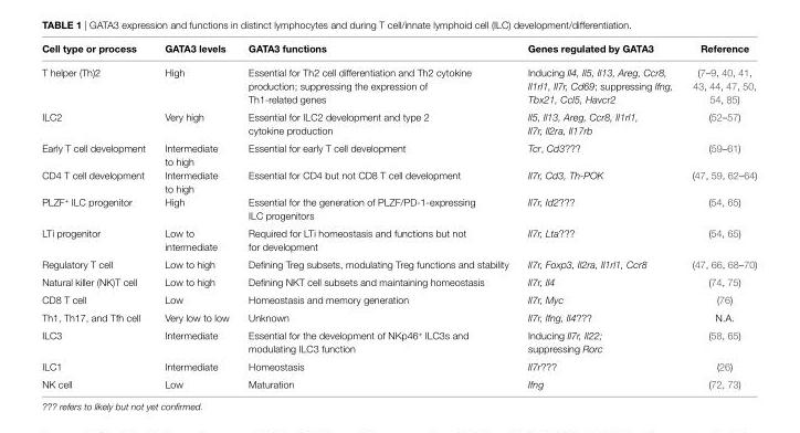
<table><thead><tr><td>cell type or process</td><td>GAtA3 levels</td><td>GAtA3 functions</td><td>Genes regulated by GAtA3</td><td>reference</td></tr></thead><tbody><tr><td>T helper (Th)2</td><td>High</td><td>Essential for Th2 cell differentiation and Th2 cytokine production; suppressing the expression of Th1-related genes</td><td>Inducing Il4, Il5, Il13, Areg, Ccr8, Il1rl1, Il7r, Cd69; suppressing Ifng, Tbx21, Ccl5, Havcr2</td><td>(7–9, 40, 41, 43, 44, 47, 50, 54, 85)</td></tr><tr><td>ILC2</td><td>Very high</td><td>Essential for ILC2 development and type 2 cytokine production</td><td>Il5, Il13, Areg, Ccr8, Il1rl1, Il7r, Il2ra, Il17rb</td><td>(52–57)</td></tr><tr><td>Early T cell development</td><td>Intermediate to high</td><td>Essential for early T cell development</td><td>Tcr, Cd3???</td><td>(59–61)</td></tr><tr><td>CD4 T cell development</td><td>Intermediate to high</td><td>Essential for CD4 but not CD8 T cell development</td><td>Il7r, Cd3, Th-POK</td><td>(47, 59, 62–64)</td></tr><tr><td>PLZF<sup>+</sup> ILC progenitor</td><td>High</td><td>Essential for the generation of PLZF/PD-1-expressing ILC progenitors</td><td>Il7r, Id2???</td><td>(54, 65)</td></tr><tr><td>LTi progenitor</td><td>Low to intermediate</td><td>Required for LTi homeostasis and functions but not for development</td><td>Il7r, Lta???</td><td>(54, 65)</td></tr><tr><td>Regulatory T cell</td><td>Low to high</td><td>Defining Treg subsets, modulating Treg functions and stability</td><td>Il7r, Foxp3, Il2ra, Il1rl1, Ccr8</td><td>(47, 66, 68–70)</td></tr><tr><td>Natural killer (NK)T cell</td><td>Low to high</td><td>Defining NKT cell subsets and maintaining homeostasis</td><td>Il7r, Il4</td><td>(74, 75)</td></tr><tr><td>CD8 T cell</td><td>Low</td><td>Homeostasis and memory generation</td><td>Il7r, Myc</td><td>(76)</td></tr><tr><td>Th1, Th17, and Tfh cell</td><td>Very low to low</td><td>Unknown</td><td>Il7r, Ifng, Il4???</td><td>N.A.</td></tr><tr><td>ILC3</td><td>Intermediate</td><td>Essential for the development of NKp46<sup>+</sup> ILC3s and modulating ILC3 function</td><td>Inducing Il7r, Il22; suppressing Rorc</td><td>(58, 65)</td></tr><tr><td>ILC1</td><td>Intermediate</td><td>Homeostasis</td><td>Il7r???</td><td>(26)</td></tr><tr><td>NK cell</td><td>Low</td><td>Maturation</td><td>Ifng</td><td>(72, 73)</td></tr></tbody></table>